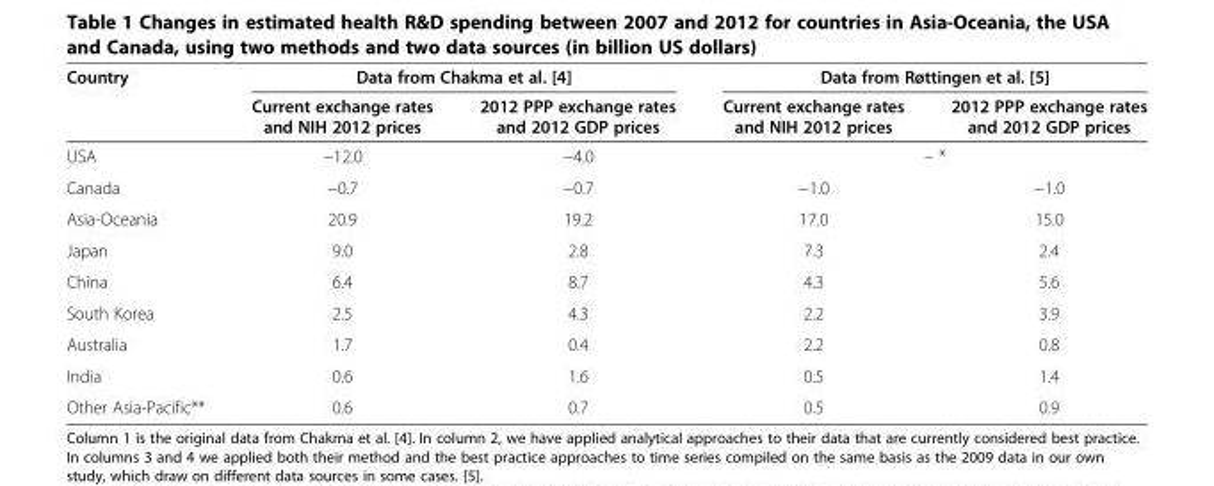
<table><thead><tr><td rowspan="2">Country</td><td colspan="2">Data from Chakma et al. [4]</td><td colspan="2">Data from Røttingen et al. [5]</td></tr><tr><td>Current exchange rates and NIH 2012 prices</td><td>2012 PPP exchange rates and 2012 GDP prices</td><td>Current exchange rates and NIH 2012 prices</td><td>2012 PPP exchange rates and 2012 GDP prices</td></tr></thead><tbody><tr><td>USA</td><td>−12.0</td><td>−4.0</td><td colspan="2">– *</td></tr><tr><td>Canada</td><td>−0.7</td><td>−0.7</td><td>−1.0</td><td>−1.0</td></tr><tr><td>Asia-Oceania</td><td>20.9</td><td>19.2</td><td>17.0</td><td>15.0</td></tr><tr><td>Japan</td><td>9.0</td><td>2.8</td><td>7.3</td><td>2.4</td></tr><tr><td>China</td><td>6.4</td><td>8.7</td><td>4.3</td><td>5.6</td></tr><tr><td>South Korea</td><td>2.5</td><td>4.3</td><td>2.2</td><td>3.9</td></tr><tr><td>Australia</td><td>1.7</td><td>0.4</td><td>2.2</td><td>0.8</td></tr><tr><td>India</td><td>0.6</td><td>1.6</td><td>0.5</td><td>1.4</td></tr><tr><td>Other Asia-Pacific**</td><td>0.6</td><td>0.7</td><td>0.5</td><td>0.9</td></tr></tbody></table>